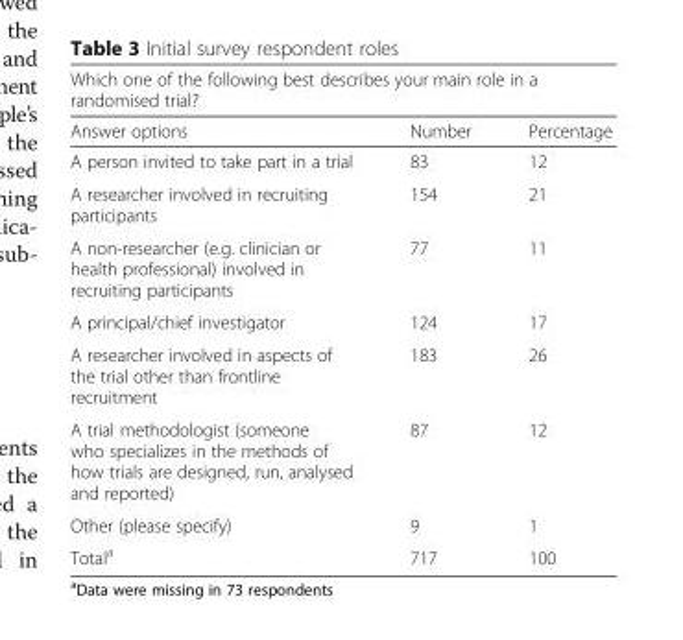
<table><thead><tr><td colspan="3">Which one of the following best describes your main role in a randomised trial?</td></tr><tr><td>Answer options</td><td>Number</td><td>Percentage</td></tr></thead><tbody><tr><td>A person invited to take part in a trial</td><td>83</td><td>12</td></tr><tr><td>A researcher involved in recruiting participants</td><td>154</td><td>21</td></tr><tr><td>A non-researcher (e.g. clinician or health professional) involved in recruiting participants</td><td>77</td><td>11</td></tr><tr><td>A principal/chief investigator</td><td>124</td><td>17</td></tr><tr><td>A researcher involved in aspects of the trial other than frontline recruitment</td><td>183</td><td>26</td></tr><tr><td>A trial methodologist (someone who specializes in the methods of how trials are designed, run, analysed and reported)</td><td>87</td><td>12</td></tr><tr><td>Other (please specify)</td><td>9</td><td>1</td></tr><tr><td>Total<sup>a</sup></td><td>717</td><td>100</td></tr></tbody></table>